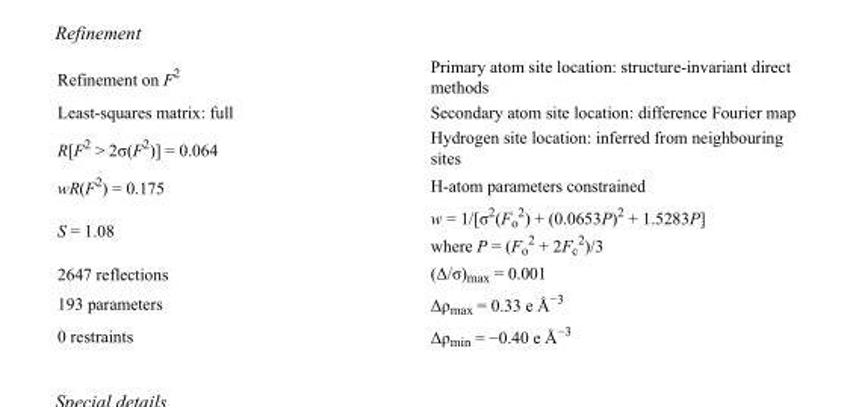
<table><tbody><tr><td>Refinement on F<sup>2</sup></td><td>Primary atom site location: structure-invariant direct methods</td></tr><tr><td>Least-squares matrix: full</td><td>Secondary atom site location: difference Fourier map</td></tr><tr><td>R[F<sup>2</sup> &gt; 2σ(F<sup>2</sup>)] = 0.064</td><td>Hydrogen site location: inferred from neighbouring sites</td></tr><tr><td>wR(F<sup>2</sup>) = 0.175</td><td>H-atom parameters constrained</td></tr><tr><td>S = 1.08</td><td>w = 1/[σ<sup>2</sup>(F<sub>o</sub> <sup>2</sup>) + (0.0653P)<sup>2</sup> + 1.5283P] where P = (F<sub>o</sub> <sup>2</sup> + 2F<sub>c</sub> <sup>2</sup>)/3</td></tr><tr><td>2647 reflections</td><td>(Δ/σ)<sub>max</sub> = 0.001</td></tr><tr><td>193 parameters</td><td>Δρ<sub>max</sub> = 0.33 e Å<sup>−3</sup></td></tr><tr><td>0 restraints</td><td>Δρ<sub>min</sub> = −0.40 e Å<sup>−3</sup></td></tr></tbody></table>